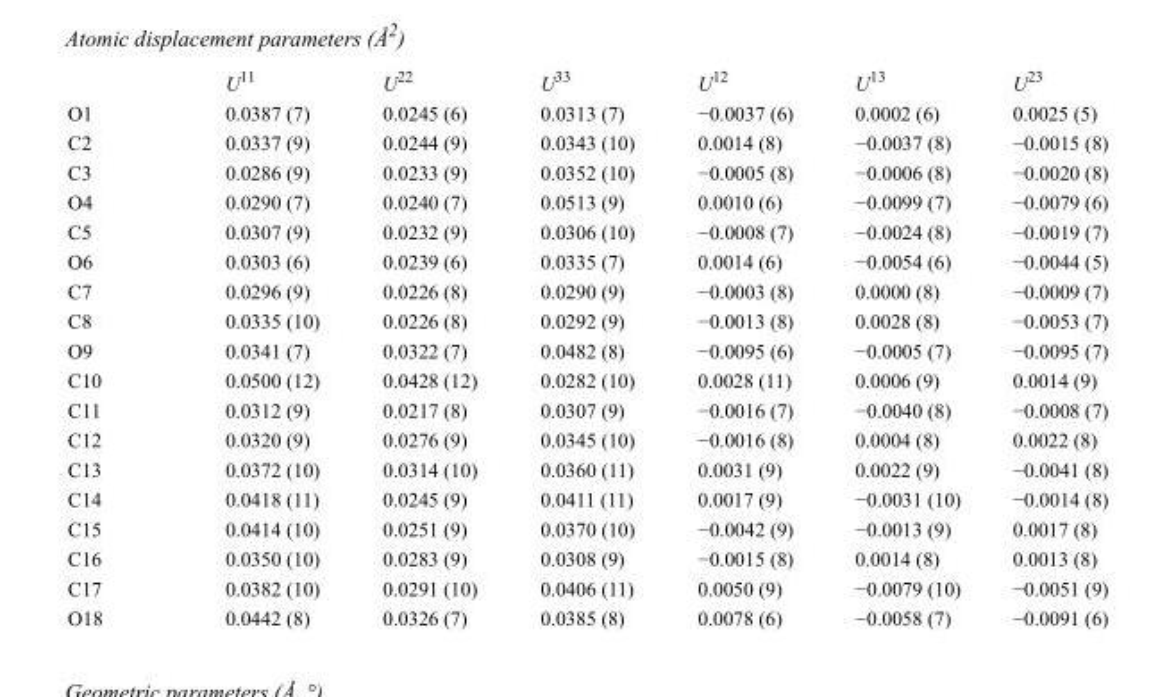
<table><thead><tr><td></td><td>U<sup>11</sup></td><td>U<sup>22</sup></td><td>U<sup>33</sup></td><td>U<sup>12</sup></td><td>U<sup>13</sup></td><td>U<sup>23</sup></td></tr></thead><tbody><tr><td>O1</td><td>0.0387 (7)</td><td>0.0245 (6)</td><td>0.0313 (7)</td><td>−0.0037 (6)</td><td>0.0002 (6)</td><td>0.0025 (5)</td></tr><tr><td>C2</td><td>0.0337 (9)</td><td>0.0244 (9)</td><td>0.0343 (10)</td><td>0.0014 (8)</td><td>−0.0037 (8)</td><td>−0.0015 (8)</td></tr><tr><td>C3</td><td>0.0286 (9)</td><td>0.0233 (9)</td><td>0.0352 (10)</td><td>−0.0005 (8)</td><td>−0.0006 (8)</td><td>−0.0020 (8)</td></tr><tr><td>O4</td><td>0.0290 (7)</td><td>0.0240 (7)</td><td>0.0513 (9)</td><td>0.0010 (6)</td><td>−0.0099 (7)</td><td>−0.0079 (6)</td></tr><tr><td>C5</td><td>0.0307 (9)</td><td>0.0232 (9)</td><td>0.0306 (10)</td><td>−0.0008 (7)</td><td>−0.0024 (8)</td><td>−0.0019 (7)</td></tr><tr><td>O6</td><td>0.0303 (6)</td><td>0.0239 (6)</td><td>0.0335 (7)</td><td>0.0014 (6)</td><td>−0.0054 (6)</td><td>−0.0044 (5)</td></tr><tr><td>C7</td><td>0.0296 (9)</td><td>0.0226 (8)</td><td>0.0290 (9)</td><td>−0.0003 (8)</td><td>0.0000 (8)</td><td>−0.0009 (7)</td></tr><tr><td>C8</td><td>0.0335 (10)</td><td>0.0226 (8)</td><td>0.0292 (9)</td><td>−0.0013 (8)</td><td>0.0028 (8)</td><td>−0.0053 (7)</td></tr><tr><td>O9</td><td>0.0341 (7)</td><td>0.0322 (7)</td><td>0.0482 (8)</td><td>−0.0095 (6)</td><td>−0.0005 (7)</td><td>−0.0095 (7)</td></tr><tr><td>C10</td><td>0.0500 (12)</td><td>0.0428 (12)</td><td>0.0282 (10)</td><td>0.0028 (11)</td><td>0.0006 (9)</td><td>0.0014 (9)</td></tr><tr><td>C11</td><td>0.0312 (9)</td><td>0.0217 (8)</td><td>0.0307 (9)</td><td>−0.0016 (7)</td><td>−0.0040 (8)</td><td>−0.0008 (7)</td></tr><tr><td>C12</td><td>0.0320 (9)</td><td>0.0276 (9)</td><td>0.0345 (10)</td><td>−0.0016 (8)</td><td>0.0004 (8)</td><td>0.0022 (8)</td></tr><tr><td>C13</td><td>0.0372 (10)</td><td>0.0314 (10)</td><td>0.0360 (11)</td><td>0.0031 (9)</td><td>0.0022 (9)</td><td>−0.0041 (8)</td></tr><tr><td>C14</td><td>0.0418 (11)</td><td>0.0245 (9)</td><td>0.0411 (11)</td><td>0.0017 (9)</td><td>−0.0031 (10)</td><td>−0.0014 (8)</td></tr><tr><td>C15</td><td>0.0414 (10)</td><td>0.0251 (9)</td><td>0.0370 (10)</td><td>−0.0042 (9)</td><td>−0.0013 (9)</td><td>0.0017 (8)</td></tr><tr><td>C16</td><td>0.0350 (10)</td><td>0.0283 (9)</td><td>0.0308 (9)</td><td>−0.0015 (8)</td><td>0.0014 (8)</td><td>0.0013 (8)</td></tr><tr><td>C17</td><td>0.0382 (10)</td><td>0.0291 (10)</td><td>0.0406 (11)</td><td>0.0050 (9)</td><td>−0.0079 (10)</td><td>−0.0051 (9)</td></tr><tr><td>O18</td><td>0.0442 (8)</td><td>0.0326 (7)</td><td>0.0385 (8)</td><td>0.0078 (6)</td><td>−0.0058 (7)</td><td>−0.0091 (6)</td></tr></tbody></table>